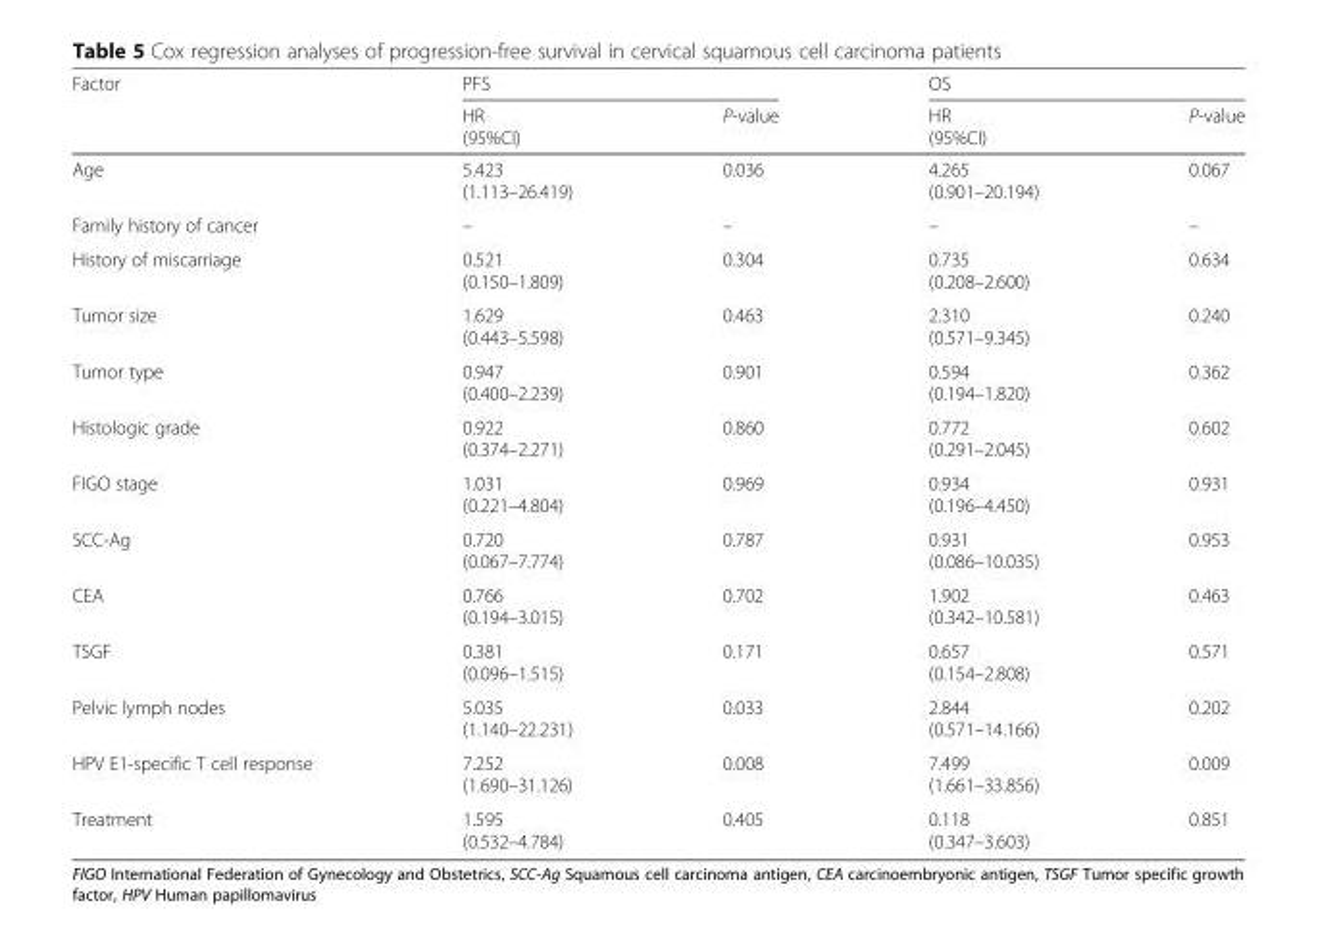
<table><thead><tr><td rowspan="2">Factor</td><td colspan="2">PFS</td><td colspan="2">OS</td></tr><tr><td>HR (95%CI)</td><td>P-value</td><td>HR (95%CI)</td><td>P-value</td></tr></thead><tbody><tr><td>Age</td><td>5.423 (1.113–26.419)</td><td>0.036</td><td>4.265 (0.901–20.194)</td><td>0.067</td></tr><tr><td>Family history of cancer</td><td>–</td><td>–</td><td>–</td><td>–</td></tr><tr><td>History of miscarriage</td><td>0.521 (0.150–1.809)</td><td>0.304</td><td>0.735 (0.208–2.600)</td><td>0.634</td></tr><tr><td>Tumor size</td><td>1.629 (0.443–5.598)</td><td>0.463</td><td>2.310 (0.571–9.345)</td><td>0.240</td></tr><tr><td>Tumor type</td><td>0.947 (0.400–2.239)</td><td>0.901</td><td>0.594 (0.194–1.820)</td><td>0.362</td></tr><tr><td>Histologic grade</td><td>0.922 (0.374–2.271)</td><td>0.860</td><td>0.772 (0.291–2.045)</td><td>0.602</td></tr><tr><td>FIGO stage</td><td>1.031 (0.221–4.804)</td><td>0.969</td><td>0.934 (0.196–4.450)</td><td>0.931</td></tr><tr><td>SCC-Ag</td><td>0.720 (0.067–7.774)</td><td>0.787</td><td>0.931 (0.086–10.035)</td><td>0.953</td></tr><tr><td>CEA</td><td>0.766 (0.194–3.015)</td><td>0.702</td><td>1.902 (0.342–10.581)</td><td>0.463</td></tr><tr><td>TSGF</td><td>0.381 (0.096–1.515)</td><td>0.171</td><td>0.657 (0.154–2.808)</td><td>0.571</td></tr><tr><td>Pelvic lymph nodes</td><td>5.035 (1.140–22.231)</td><td>0.033</td><td>2.844 (0.571–14.166)</td><td>0.202</td></tr><tr><td>HPV E1-specific T cell response</td><td>7.252 (1.690–31.126)</td><td>0.008</td><td>7.499 (1.661–33.856)</td><td>0.009</td></tr><tr><td>Treatment</td><td>1.595 (0.532–4.784)</td><td>0.405</td><td>0.118 (0.347–3.603)</td><td>0.851</td></tr></tbody></table>